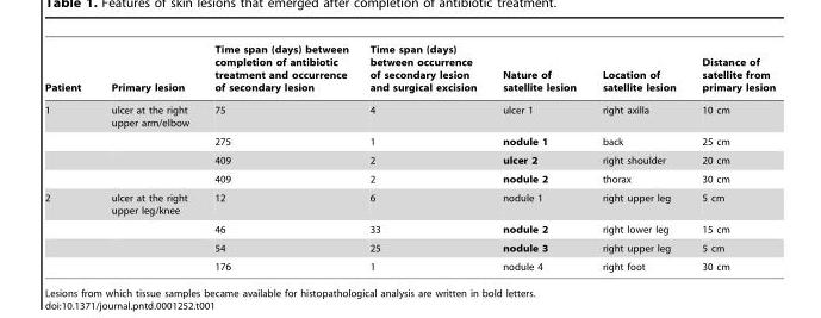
<table><thead><tr><td>Patient</td><td>Primary lesion</td><td>Time span (days) between completion of antibiotic treatment and occurrence of secondary lesion</td><td>Time span (days) between occurrence of secondary lesion and surgical excision</td><td>Nature of satellite lesion</td><td>Location of satellite lesion</td><td>Distance of satellite from primary lesion</td></tr></thead><tbody><tr><td rowspan="4">1</td><td>ulcer at the right upper arm/elbow</td><td>75</td><td>4</td><td>ulcer 1</td><td>right axilla</td><td>10 cm</td></tr><tr><td></td><td>275</td><td>1</td><td>nodule 1</td><td>back</td><td>25 cm</td></tr><tr><td></td><td>409</td><td>2</td><td>ulcer 2</td><td>right shoulder</td><td>20 cm</td></tr><tr><td></td><td>409</td><td>2</td><td>nodule 2</td><td>thorax</td><td>30 cm</td></tr><tr><td rowspan="4">2</td><td>ulcer at the right upper leg/knee</td><td>12</td><td>6</td><td>nodule 1</td><td>right upper leg</td><td>5 cm</td></tr><tr><td></td><td>46</td><td>33</td><td>nodule 2</td><td>right lower leg</td><td>15 cm</td></tr><tr><td></td><td>54</td><td>25</td><td>nodule 3</td><td>right upper leg</td><td>5 cm</td></tr><tr><td></td><td>176</td><td>1</td><td>nodule 4</td><td>right foot</td><td>30 cm</td></tr></tbody></table>